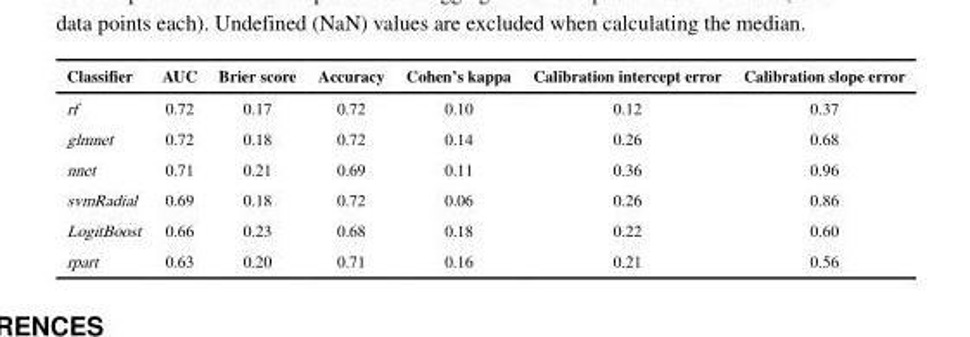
<table><thead><tr><td>Classifier</td><td>AUC</td><td>Brier score</td><td>Accuracy</td><td>Cohen’s kappa</td><td>Calibration intercept error</td><td>Calibration slope error</td></tr></thead><tbody><tr><td>rf</td><td>0.72</td><td>0.17</td><td>0.72</td><td>0.10</td><td>0.12</td><td>0.37</td></tr><tr><td>glmnet</td><td>0.72</td><td>0.18</td><td>0.72</td><td>0.14</td><td>0.26</td><td>0.68</td></tr><tr><td>nnet</td><td>0.71</td><td>0.21</td><td>0.69</td><td>0.11</td><td>0.36</td><td>0.96</td></tr><tr><td>svmRadial</td><td>0.69</td><td>0.18</td><td>0.72</td><td>0.06</td><td>0.26</td><td>0.86</td></tr><tr><td>LogitBoost</td><td>0.66</td><td>0.23</td><td>0.68</td><td>0.18</td><td>0.22</td><td>0.60</td></tr><tr><td>rpart</td><td>0.63</td><td>0.20</td><td>0.71</td><td>0.16</td><td>0.21</td><td>0.56</td></tr></tbody></table>